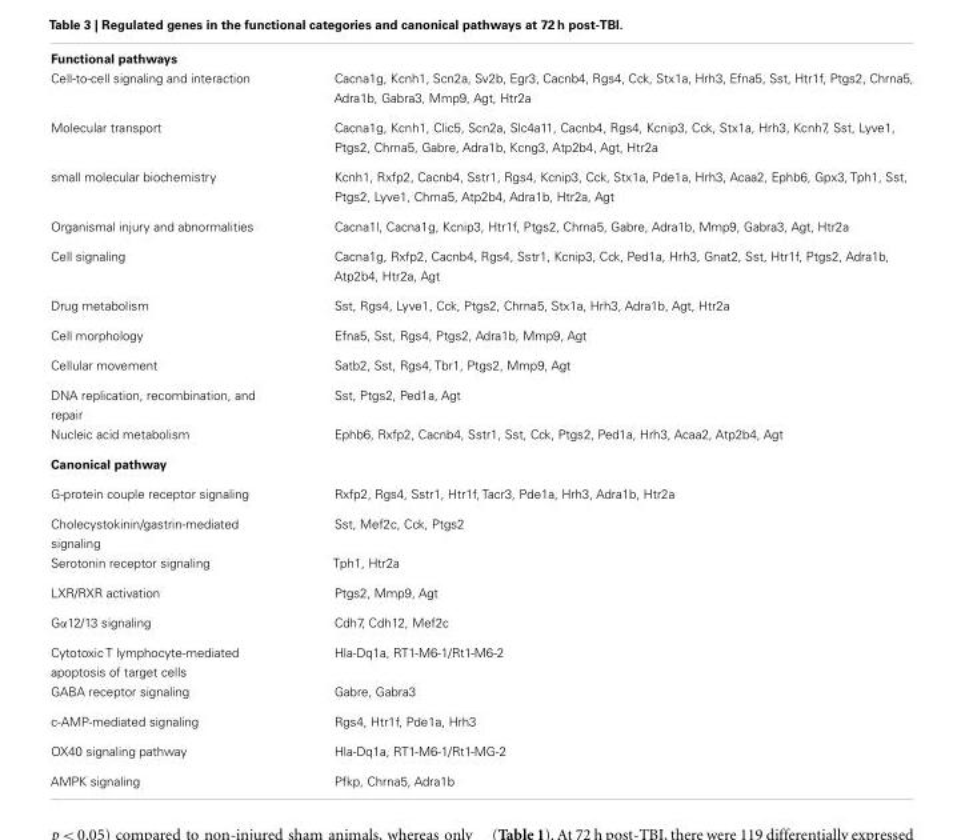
<table><tbody><tr><td colspan="2">Functional pathways</td></tr><tr><td>Cell-to-cell signaling and interaction</td><td>Cacna1g, Kcnh1, Scn2a, Sv2b, Egr3, Cacnb4, Rgs4, Cck, Stx1a, Hrh3, Efna5, Sst, Htr1f, Ptgs2, Chrna5, Adra1b, Gabra3, Mmp9, Agt, Htr2a</td></tr><tr><td>Molecular transport</td><td>Cacna1g, Kcnh1, Clic5, Scn2a, Slc4a11, Cacnb4, Rgs4, Kcnip3, Cck, Stx1a, Hrh3, Kcnh7, Sst, Lyve1, Ptgs2, Chrna5, Gabre, Adra1b, Kcng3, Atp2b4, Agt, Htr2a</td></tr><tr><td>small molecular biochemistry</td><td>Kcnh1, Rxfp2, Cacnb4, Sstr1, Rgs4, Kcnip3, Cck, Stx1a, Pde1a, Hrh3, Acaa2, Ephb6, Gpx3, Tph1, Sst, Ptgs2, Lyve1, Chrna5, Atp2b4, Adra1b, Htr2a, Agt</td></tr><tr><td>Organismal injury and abnormalities</td><td>Cacna1l, Cacna1g, Kcnip3, Htr1f, Ptgs2, Chrna5, Gabre, Adra1b, Mmp9, Gabra3, Agt, Htr2a</td></tr><tr><td>Cell signaling</td><td>Cacna1g, Rxfp2, Cacnb4, Rgs4, Sstr1, Kcnip3, Cck, Ped1a, Hrh3, Gnat2, Sst, Htr1f, Ptgs2, Adra1b, Atp2b4, Htr2a, Agt</td></tr><tr><td>Drug metabolism</td><td>Sst, Rgs4, Lyve1, Cck, Ptgs2, Chrna5, Stx1a, Hrh3, Adra1b, Agt, Htr2a</td></tr><tr><td>Cell morphology</td><td>Efna5, Sst, Rgs4, Ptgs2, Adra1b, Mmp9, Agt</td></tr><tr><td>Cellular movement</td><td>Satb2, Sst, Rgs4, Tbr1, Ptgs2, Mmp9, Agt</td></tr><tr><td>DNA replication, recombination, and repair</td><td>Sst, Ptgs2, Ped1a, Agt</td></tr><tr><td>Nucleic acid metabolism</td><td>Ephb6, Rxfp2, Cacnb4, Sstr1, Sst, Cck, Ptgs2, Ped1a, Hrh3, Acaa2, Atp2b4, Agt</td></tr><tr><td colspan="2">Canonical pathway</td></tr><tr><td>G-protein couple receptor signaling</td><td>Rxfp2, Rgs4, Sstr1, Htr1f, Tacr3, Pde1a, Hrh3, Adra1b, Htr2a</td></tr><tr><td>Cholecystokinin/gastrin-mediated signaling</td><td>Sst, Mef2c, Cck, Ptgs2</td></tr><tr><td>Serotonin receptor signaling</td><td>Tph1, Htr2a</td></tr><tr><td>LXR/RXR activation</td><td>Ptgs2, Mmp9, Agt</td></tr><tr><td>Gα12/13 signaling</td><td>Cdh7, Cdh12, Mef2c</td></tr><tr><td>Cytotoxic T lymphocyte-mediated apoptosis of target cells</td><td>Hla-Dq1a, RT1-M6-1/Rt1-M6-2</td></tr><tr><td>GABA receptor signaling</td><td>Gabre, Gabra3</td></tr><tr><td>c-AMP-mediated signaling</td><td>Rgs4, Htr1f, Pde1a, Hrh3</td></tr><tr><td>OX40 signaling pathway</td><td>Hla-Dq1a, RT1-M6-1/Rt1-MG-2</td></tr><tr><td>AMPK signaling</td><td>Pfkp, Chrna5, Adra1b</td></tr></tbody></table>